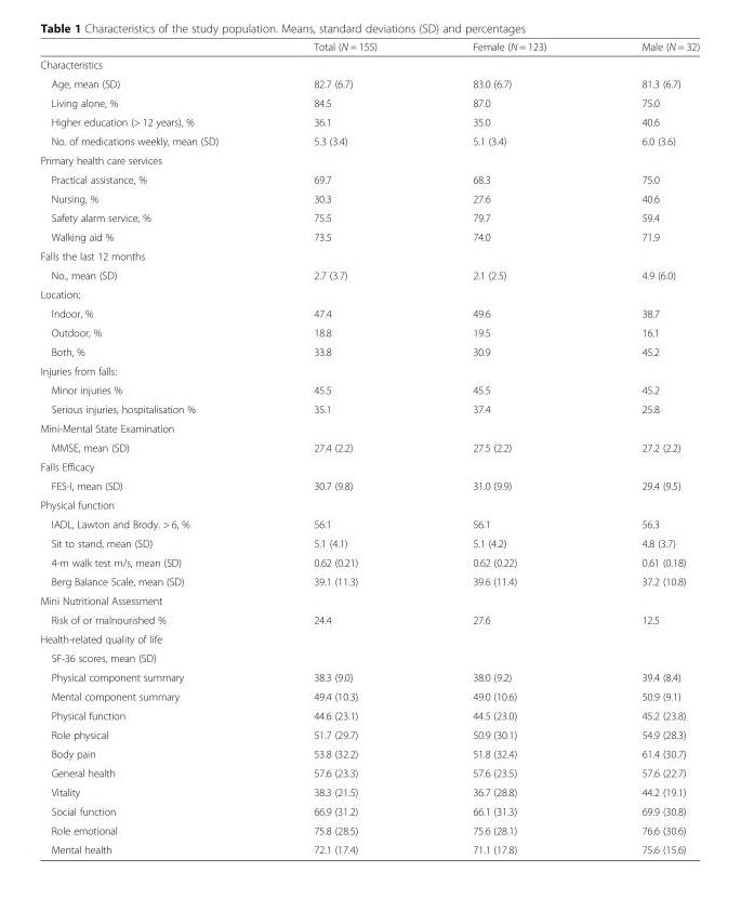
<table><thead><tr><td></td><td>Total (N = 155)</td><td>Female (N = 123)</td><td>Male (N = 32)</td></tr></thead><tbody><tr><td colspan="4">Characteristics</td></tr><tr><td>Age, mean (SD)</td><td>82.7 (6.7)</td><td>83.0 (6.7)</td><td>81.3 (6.7)</td></tr><tr><td>Living alone, %</td><td>84.5</td><td>87.0</td><td>75.0</td></tr><tr><td>Higher education (&gt; 12 years), %</td><td>36.1</td><td>35.0</td><td>40.6</td></tr><tr><td>No. of medications weekly, mean (SD)</td><td>5.3 (3.4)</td><td>5.1 (3.4)</td><td>6.0 (3.6)</td></tr><tr><td colspan="4">Primary health care services</td></tr><tr><td>Practical assistance, %</td><td>69.7</td><td>68.3</td><td>75.0</td></tr><tr><td>Nursing, %</td><td>30.3</td><td>27.6</td><td>40.6</td></tr><tr><td>Safety alarm service, %</td><td>75.5</td><td>79.7</td><td>59.4</td></tr><tr><td>Walking aid %</td><td>73.5</td><td>74.0</td><td>71.9</td></tr><tr><td colspan="4">Falls the last 12 months</td></tr><tr><td>No., mean (SD)</td><td>2.7 (3.7)</td><td>2.1 (2.5)</td><td>4.9 (6.0)</td></tr><tr><td colspan="4">Location:</td></tr><tr><td>Indoor, %</td><td>47.4</td><td>49.6</td><td>38.7</td></tr><tr><td>Outdoor, %</td><td>18.8</td><td>19.5</td><td>16.1</td></tr><tr><td>Both, %</td><td>33.8</td><td>30.9</td><td>45.2</td></tr><tr><td colspan="4">Injuries from falls:</td></tr><tr><td>Minor injuries %</td><td>45.5</td><td>45.5</td><td>45.2</td></tr><tr><td>Serious injuries, hospitalisation %</td><td>35.1</td><td>37.4</td><td>25.8</td></tr><tr><td colspan="4">Mini-Mental State Examination</td></tr><tr><td>MMSE, mean (SD)</td><td>27.4 (2.2)</td><td>27.5 (2.2)</td><td>27.2 (2.2)</td></tr><tr><td colspan="4">Falls Efficacy</td></tr><tr><td>FES-I, mean (SD)</td><td>30.7 (9.8)</td><td>31.0 (9.9)</td><td>29.4 (9.5)</td></tr><tr><td colspan="4">Physical function</td></tr><tr><td>IADL, Lawton and Brody. &gt; 6, %</td><td>56.1</td><td>56.1</td><td>56.3</td></tr><tr><td>Sit to stand, mean (SD)</td><td>5.1 (4.1)</td><td>5.1 (4.2)</td><td>4.8 (3.7)</td></tr><tr><td>4-m walk test m/s, mean (SD)</td><td>0.62 (0.21)</td><td>0.62 (0.22)</td><td>0.61 (0.18)</td></tr><tr><td>Berg Balance Scale, mean (SD)</td><td>39.1 (11.3)</td><td>39.6 (11.4)</td><td>37.2 (10.8)</td></tr><tr><td colspan="4">Mini Nutritional Assessment</td></tr><tr><td>Risk of or malnourished %</td><td>24.4</td><td>27.6</td><td>12.5</td></tr><tr><td colspan="4">Health-related quality of life</td></tr><tr><td colspan="4">SF-36 scores, mean (SD)</td></tr><tr><td>Physical component summary</td><td>38.3 (9.0)</td><td>38.0 (9.2)</td><td>39.4 (8.4)</td></tr><tr><td>Mental component summary</td><td>49.4 (10.3)</td><td>49.0 (10.6)</td><td>50.9 (9.1)</td></tr><tr><td>Physical function</td><td>44.6 (23.1)</td><td>44.5 (23.0)</td><td>45.2 (23.8)</td></tr><tr><td>Role physical</td><td>51.7 (29.7)</td><td>50.9 (30.1)</td><td>54.9 (28.3)</td></tr><tr><td>Body pain</td><td>53.8 (32.2)</td><td>51.8 (32.4)</td><td>61.4 (30.7)</td></tr><tr><td>General health</td><td>57.6 (23.3)</td><td>57.6 (23.5)</td><td>57.6 (22.7)</td></tr><tr><td>Vitality</td><td>38.3 (21.5)</td><td>36.7 (28.8)</td><td>44.2 (19.1)</td></tr><tr><td>Social function</td><td>66.9 (31.2)</td><td>66.1 (31.3)</td><td>69.9 (30.8)</td></tr><tr><td>Role emotional</td><td>75.8 (28.5)</td><td>75.6 (28.1)</td><td>76.6 (30.6)</td></tr><tr><td>Mental health</td><td>72.1 (17.4)</td><td>71.1 (17.8)</td><td>75.6 (15.6)</td></tr></tbody></table>